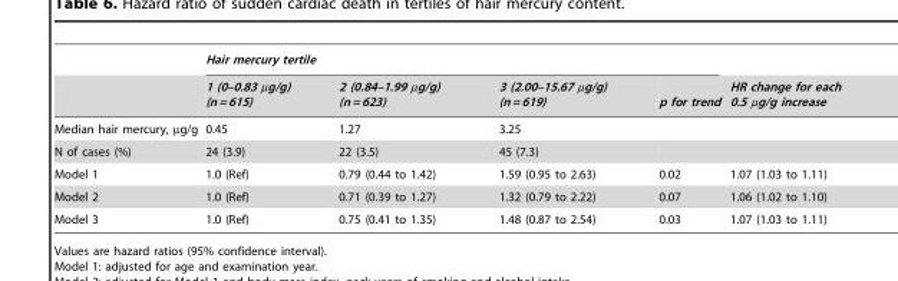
<table><thead><tr><td rowspan="2"></td><td colspan="4">Hair mercury tertile</td><td rowspan="2">HR change for each 0.5 µg/g increase</td></tr><tr><td>1 (0–0.83 µg/g) (n = 615)</td><td>2 (0.84–1.99 µg/g) (n = 623)</td><td>3 (2.00–15.67 µg/g) (n = 619)</td><td>p for trend</td></tr></thead><tbody><tr><td>Median hair mercury, µg/g</td><td>0.45</td><td>1.27</td><td>3.25</td><td></td><td></td></tr><tr><td>N of cases (%)</td><td>24 (3.9)</td><td>22 (3.5)</td><td>45 (7.3)</td><td></td><td></td></tr><tr><td>Model 1</td><td>1.0 (Ref)</td><td>0.79 (0.44 to 1.42)</td><td>1.59 (0.95 to 2.63)</td><td>0.02</td><td>1.07 (1.03 to 1.11)</td></tr><tr><td>Model 2</td><td>1.0 (Ref)</td><td>0.71 (0.39 to 1.27)</td><td>1.32 (0.79 to 2.22)</td><td>0.07</td><td>1.06 (1.02 to 1.10)</td></tr><tr><td>Model 3</td><td>1.0 (Ref)</td><td>0.75 (0.41 to 1.35)</td><td>1.48 (0.87 to 2.54)</td><td>0.03</td><td>1.07 (1.03 to 1.11)</td></tr></tbody></table>